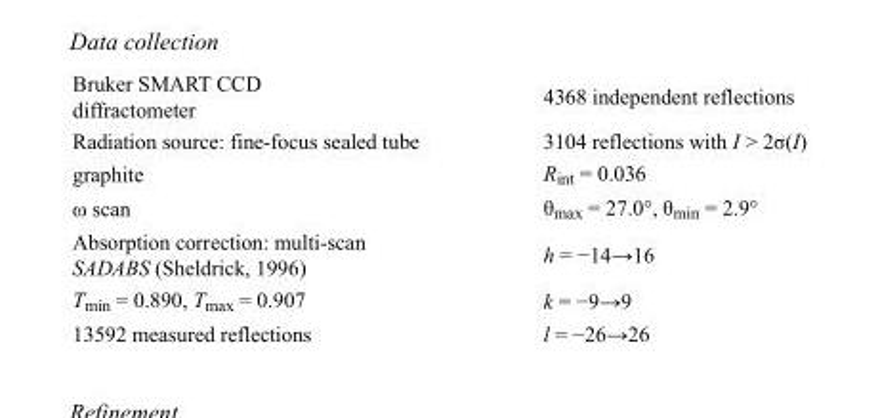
<table><tbody><tr><td>Bruker SMART CCD diffractometer</td><td>4368 independent reflections</td></tr><tr><td>Radiation source: fine-focus sealed tube</td><td>3104 reflections with I &gt; 2σ(I)</td></tr><tr><td>graphite</td><td>R<sub>int</sub> = 0.036</td></tr><tr><td>ω scan</td><td>θ<sub>max</sub> = 27.0°, θ<sub>min</sub> = 2.9°</td></tr><tr><td>Absorption correction: multi-scan SADABS (Sheldrick, 1996)</td><td>h = −14→16</td></tr><tr><td>T<sub>min</sub> = 0.890, T<sub>max</sub> = 0.907</td><td>k = −9→9</td></tr><tr><td>13592 measured reflections</td><td>l = −26→26</td></tr></tbody></table>